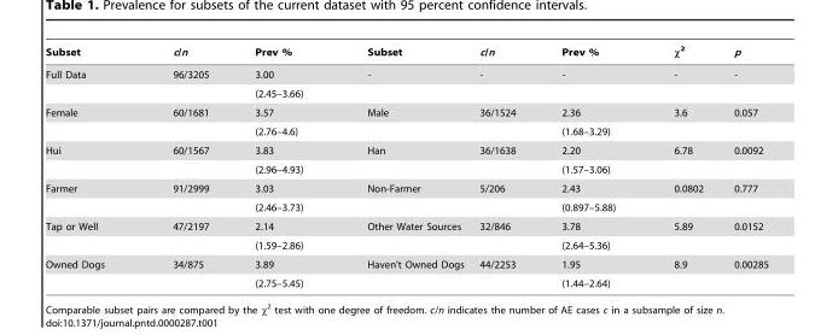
<table><thead><tr><td>Subset</td><td>c/n</td><td>Prev %</td><td>Subset</td><td>c/n</td><td>Prev %</td><td>χ<sup>2</sup></td><td>p</td></tr></thead><tbody><tr><td rowspan="2">Full Data</td><td>96/3205</td><td>3.00</td><td>-</td><td>-</td><td>-</td><td>-</td><td>-</td></tr><tr><td></td><td>(2.45–3.66)</td><td></td><td></td><td></td><td></td><td></td></tr><tr><td rowspan="2">Female</td><td>60/1681</td><td>3.57</td><td>Male</td><td>36/1524</td><td>2.36</td><td>3.6</td><td>0.057</td></tr><tr><td></td><td>(2.76–4.6)</td><td></td><td></td><td>(1.68–3.29)</td><td></td><td></td></tr><tr><td rowspan="2">Hui</td><td>60/1567</td><td>3.83</td><td>Han</td><td>36/1638</td><td>2.20</td><td>6.78</td><td>0.0092</td></tr><tr><td></td><td>(2.96–4.93)</td><td></td><td></td><td>(1.57–3.06)</td><td></td><td></td></tr><tr><td rowspan="2">Farmer</td><td>91/2999</td><td>3.03</td><td>Non-Farmer</td><td>5/206</td><td>2.43</td><td>0.0802</td><td>0.777</td></tr><tr><td></td><td>(2.46–3.73)</td><td></td><td></td><td>(0.897–5.88)</td><td></td><td></td></tr><tr><td rowspan="2">Tap or Well</td><td>47/2197</td><td>2.14</td><td>Other Water Sources</td><td>32/846</td><td>3.78</td><td>5.89</td><td>0.0152</td></tr><tr><td></td><td>(1.59–2.86)</td><td></td><td></td><td>(2.64–5.36)</td><td></td><td></td></tr><tr><td rowspan="2">Owned Dogs</td><td>34/875</td><td>3.89</td><td>Haven’t Owned Dogs</td><td>44/2253</td><td>1.95</td><td>8.9</td><td>0.00285</td></tr><tr><td></td><td>(2.75–5.45)</td><td></td><td></td><td>(1.44–2.64)</td><td></td><td></td></tr></tbody></table>